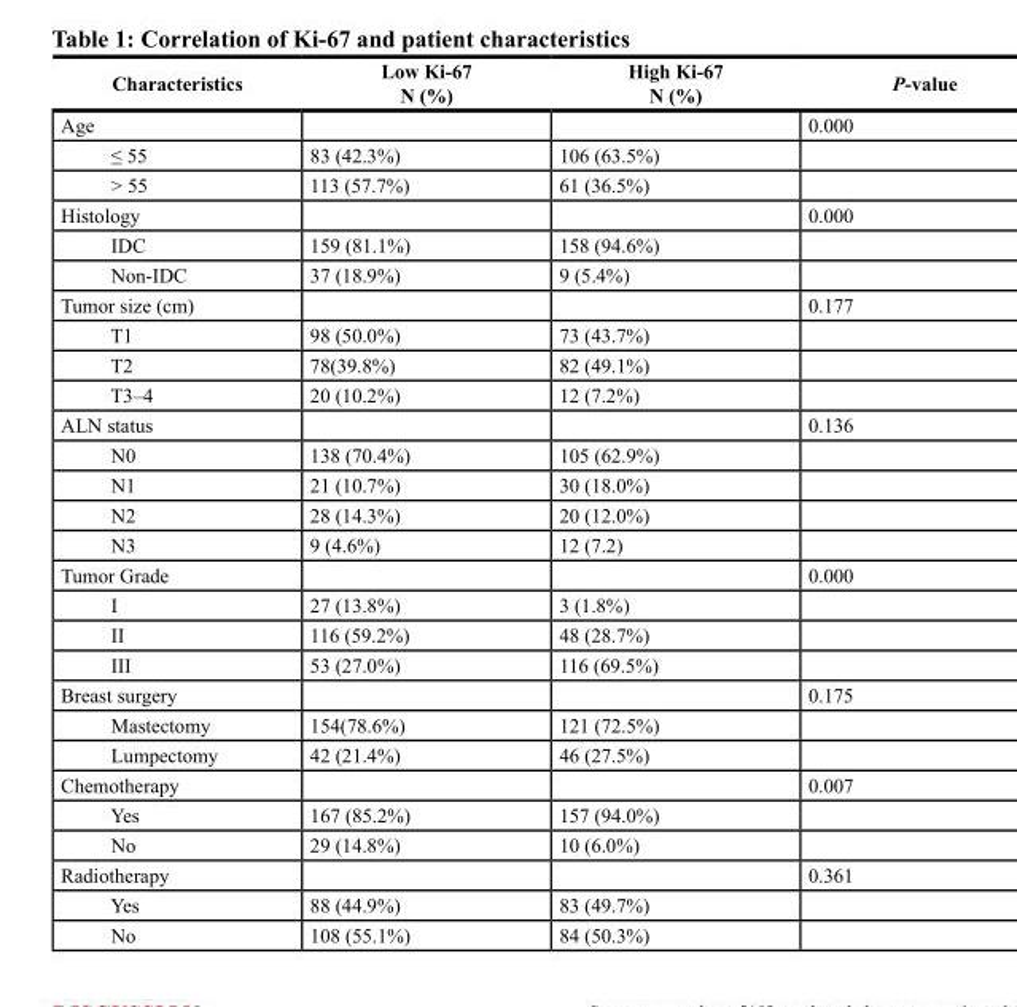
<table><thead><tr><td>Characteristics</td><td>Low Ki-67 N (%)</td><td>High Ki-67 N (%)</td><td>P-value</td></tr></thead><tbody><tr><td>Age</td><td></td><td></td><td>0.000</td></tr><tr><td>≤ 55</td><td>83 (42.3%)</td><td>106 (63.5%)</td><td></td></tr><tr><td>&gt; 55</td><td>113 (57.7%)</td><td>61 (36.5%)</td><td></td></tr><tr><td>Histology</td><td></td><td></td><td>0.000</td></tr><tr><td>IDC</td><td>159 (81.1%)</td><td>158 (94.6%)</td><td></td></tr><tr><td>Non-IDC</td><td>37 (18.9%)</td><td>9 (5.4%)</td><td></td></tr><tr><td>Tumor size (cm)</td><td></td><td></td><td>0.177</td></tr><tr><td>T1</td><td>98 (50.0%)</td><td>73 (43.7%)</td><td></td></tr><tr><td>T2</td><td>78(39.8%)</td><td>82 (49.1%)</td><td></td></tr><tr><td>T3–4</td><td>20 (10.2%)</td><td>12 (7.2%)</td><td></td></tr><tr><td>ALN status</td><td></td><td></td><td>0.136</td></tr><tr><td>N0</td><td>138 (70.4%)</td><td>105 (62.9%)</td><td></td></tr><tr><td>N1</td><td>21 (10.7%)</td><td>30 (18.0%)</td><td></td></tr><tr><td>N2</td><td>28 (14.3%)</td><td>20 (12.0%)</td><td></td></tr><tr><td>N3</td><td>9 (4.6%)</td><td>12 (7.2)</td><td></td></tr><tr><td>Tumor Grade</td><td></td><td></td><td>0.000</td></tr><tr><td>I</td><td>27 (13.8%)</td><td>3 (1.8%)</td><td></td></tr><tr><td>II</td><td>116 (59.2%)</td><td>48 (28.7%)</td><td></td></tr><tr><td>III</td><td>53 (27.0%)</td><td>116 (69.5%)</td><td></td></tr><tr><td>Breast surgery</td><td></td><td></td><td>0.175</td></tr><tr><td>Mastectomy</td><td>154(78.6%)</td><td>121 (72.5%)</td><td></td></tr><tr><td>Lumpectomy</td><td>42 (21.4%)</td><td>46 (27.5%)</td><td></td></tr><tr><td>Chemotherapy</td><td></td><td></td><td>0.007</td></tr><tr><td>Yes</td><td>167 (85.2%)</td><td>157 (94.0%)</td><td></td></tr><tr><td>No</td><td>29 (14.8%)</td><td>10 (6.0%)</td><td></td></tr><tr><td>Radiotherapy</td><td></td><td></td><td>0.361</td></tr><tr><td>Yes</td><td>88 (44.9%)</td><td>83 (49.7%)</td><td></td></tr><tr><td>No</td><td>108 (55.1%)</td><td>84 (50.3%)</td><td></td></tr></tbody></table>